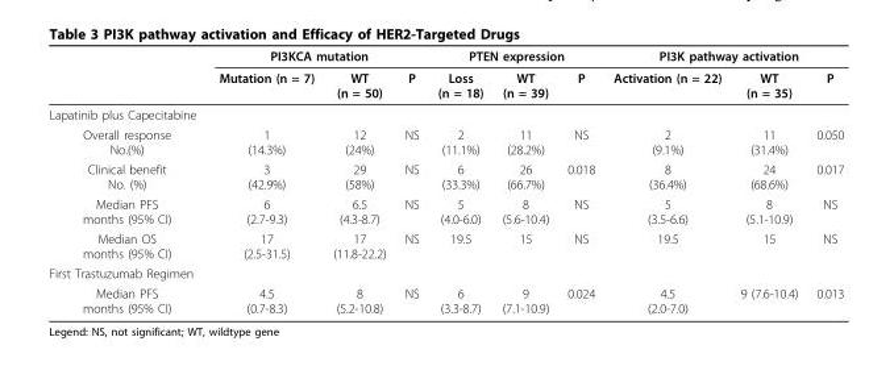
<table><thead><tr><td rowspan="2"></td><td colspan="3">PI3KCA mutation</td><td colspan="3">PTEN expression</td><td colspan="3">PI3K pathway activation</td></tr><tr><td>Mutation (n = 7)</td><td>WT (n = 50)</td><td>P</td><td>Loss (n = 18)</td><td>WT (n = 39)</td><td>P</td><td>Activation (n = 22)</td><td>WT (n = 35)</td><td>P</td></tr></thead><tbody><tr><td colspan="10">Lapatinib plus Capecitabine</td></tr><tr><td>Overall response No.(%)</td><td>1 (14.3%)</td><td>12 (24%)</td><td>NS</td><td>2 (11.1%)</td><td>11 (28.2%)</td><td>NS</td><td>2 (9.1%)</td><td>11 (31.4%)</td><td>0.050</td></tr><tr><td>Clinical benefit No. (%)</td><td>3 (42.9%)</td><td>29 (58%)</td><td>NS</td><td>6 (33.3%)</td><td>26 (66.7%)</td><td>0.018</td><td>8 (36.4%)</td><td>24 (68.6%)</td><td>0.017</td></tr><tr><td>Median PFS months (95% CI)</td><td>6 (2.7-9.3)</td><td>6.5 (4.3-8.7)</td><td>NS</td><td>5 (4.0-6.0)</td><td>8 (5.6-10.4)</td><td>NS</td><td>5 (3.5-6.6)</td><td>8 (5.1-10.9)</td><td>NS</td></tr><tr><td>Median OS months (95% CI)</td><td>17 (2.5-31.5)</td><td>17 (11.8-22.2)</td><td>NS</td><td>19.5</td><td>15</td><td>NS</td><td>19.5</td><td>15</td><td>NS</td></tr><tr><td colspan="10">First Trastuzumab Regimen</td></tr><tr><td>Median PFS months (95% CI)</td><td>4.5 (0.7-8.3)</td><td>8 (5.2-10.8)</td><td>NS</td><td>6 (3.3-8.7)</td><td>9 (7.1-10.9)</td><td>0.024</td><td>4.5 (2.0-7.0)</td><td>9 (7.6-10.4)</td><td>0.013</td></tr></tbody></table>